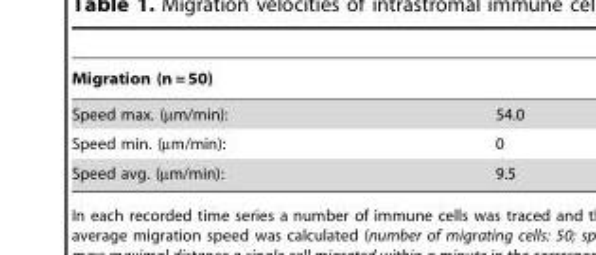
<table><thead><tr><td colspan="2">Migration (n = 50)</td></tr><tr><td>Speed max. (µm/min):</td><td>54.0</td></tr></thead><tbody><tr><td>Speed min. (µm/min):</td><td>0</td></tr><tr><td>Speed avg. (µm/min):</td><td>9.5</td></tr></tbody></table>